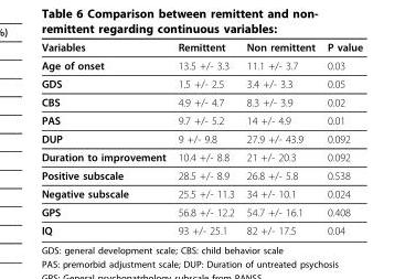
<table><thead><tr><td>Variables</td><td>Remittent</td><td>Non remittent</td><td>P value</td></tr></thead><tbody><tr><td>Age of onset</td><td>13.5 +/- 3.3</td><td>11.1 +/- 3.7</td><td>0.03</td></tr><tr><td>GDS</td><td>1.5 +/- 2.5</td><td>3.4 +/- 3.3</td><td>0.05</td></tr><tr><td>CBS</td><td>4.9 +/- 4.7</td><td>8.3 +/- 3.9</td><td>0.02</td></tr><tr><td>PAS</td><td>9.7 +/- 5.2</td><td>14 +/- 4.9</td><td>0.01</td></tr><tr><td>DUP</td><td>9 +/- 9.8</td><td>27.9 +/- 43.9</td><td>0.092</td></tr><tr><td>Duration to improvement</td><td>10.4 +/- 8.8</td><td>21 +/- 20.3</td><td>0.092</td></tr><tr><td>Positive subscale</td><td>28.5 +/- 8.9</td><td>26.8 +/- 5.8</td><td>0.538</td></tr><tr><td>Negative subscale</td><td>25.5 +/- 11.3</td><td>34 +/- 10.1</td><td>0.024</td></tr><tr><td>GPS</td><td>56.8 +/- 12.2</td><td>54.7 +/- 16.1</td><td>0.408</td></tr><tr><td>IQ</td><td>93 +/- 25.1</td><td>82 +/- 17.5</td><td>0.04</td></tr></tbody></table>